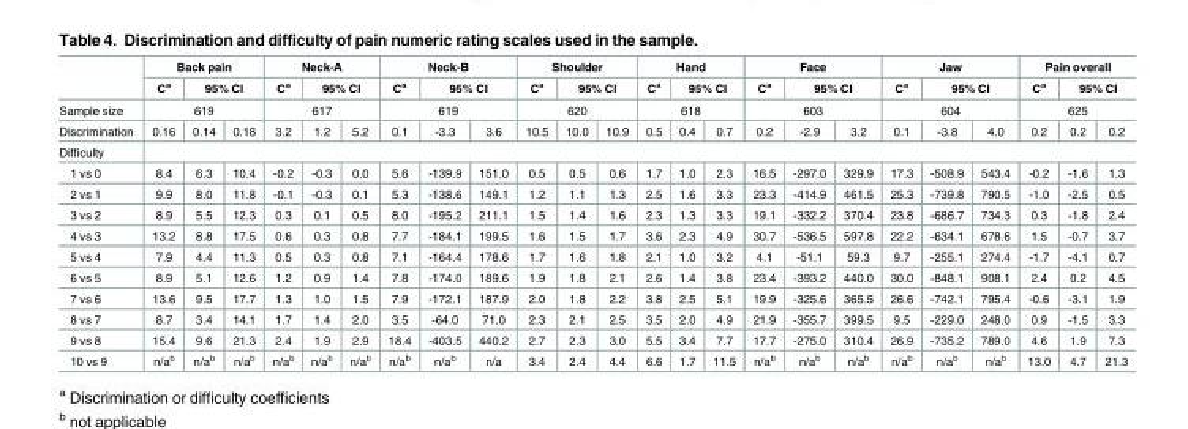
<table><thead><tr><td rowspan="4">Sample size Discrimination</td><td colspan="3">Back pain</td><td colspan="3">Neck-A</td><td colspan="3">Neck-B</td><td colspan="3">Shoulder</td><td colspan="3">Hand</td><td colspan="3">Face</td><td colspan="3">Jaw</td><td colspan="3">Pain overall</td></tr><tr><td>C<sup>a</sup></td><td colspan="2">95% CI</td><td>C<sup>a</sup></td><td colspan="2">95% CI</td><td>C<sup>a</sup></td><td colspan="2">95% CI</td><td>C<sup>a</sup></td><td colspan="2">95% CI</td><td>C<sup>a</sup></td><td colspan="2">95% CI</td><td>C<sup>a</sup></td><td colspan="2">95% CI</td><td>C<sup>a</sup></td><td colspan="2">95% CI</td><td>C<sup>a</sup></td><td colspan="2">95% CI</td></tr><tr><td colspan="3">619</td><td colspan="3">617</td><td colspan="3">619</td><td colspan="3">620</td><td colspan="3">618</td><td colspan="3">603</td><td colspan="3">604</td><td colspan="3">625</td></tr><tr><td>0.16</td><td>0.14</td><td>0.18</td><td>3.2</td><td>1.2</td><td>5.2</td><td>0.1</td><td>-3.3</td><td>3.6</td><td>10.5</td><td>10.0</td><td>10.9</td><td>0.5</td><td>0.4</td><td>0.7</td><td>0.2</td><td>-2.9</td><td>3.2</td><td>0.1</td><td>-3.8</td><td>4.0</td><td>0.2</td><td>0.2</td><td>0.2</td></tr></thead><tbody><tr><td colspan="25">Difficulty</td></tr><tr><td>1 vs 0</td><td>8.4</td><td>6.3</td><td>10.4</td><td>-0.2</td><td>-0.3</td><td>0.0</td><td>5.6</td><td>-139.9</td><td>151.0</td><td>0.5</td><td>0.5</td><td>0.6</td><td>1.7</td><td>1.0</td><td>2.3</td><td>16.5</td><td>-297.0</td><td>329.9</td><td>17.3</td><td>-508.9</td><td>543.4</td><td>-0.2</td><td>-1.6</td><td>1.3</td></tr><tr><td>2 vs 1</td><td>9.9</td><td>8.0</td><td>11.8</td><td>-0.1</td><td>-0.3</td><td>0.1</td><td>5.3</td><td>-138.6</td><td>149.1</td><td>1.2</td><td>1.1</td><td>1.3</td><td>2.5</td><td>1.6</td><td>3.3</td><td>23.3</td><td>-414.9</td><td>461.5</td><td>25.3</td><td>-739.8</td><td>790.5</td><td>-1.0</td><td>-2.5</td><td>0.5</td></tr><tr><td>3 vs 2</td><td>8.9</td><td>5.5</td><td>12.3</td><td>0.3</td><td>0.1</td><td>0.5</td><td>8.0</td><td>-195.2</td><td>211.1</td><td>1.5</td><td>1.4</td><td>1.6</td><td>2.3</td><td>1.3</td><td>3.3</td><td>19.1</td><td>-332.2</td><td>370.4</td><td>23.8</td><td>-686.7</td><td>734.3</td><td>0.3</td><td>-1.8</td><td>2.4</td></tr><tr><td>4 vs 3</td><td>13.2</td><td>8.8</td><td>17.5</td><td>0.6</td><td>0.3</td><td>0.8</td><td>7.7</td><td>-184.1</td><td>199.5</td><td>1.6</td><td>1.5</td><td>1.7</td><td>3.6</td><td>2.3</td><td>4.9</td><td>30.7</td><td>-536.5</td><td>597.8</td><td>22.2</td><td>-634.1</td><td>678.6</td><td>1.5</td><td>-0.7</td><td>3.7</td></tr><tr><td>5 vs 4</td><td>7.9</td><td>4.4</td><td>11.3</td><td>0.5</td><td>0.3</td><td>0.8</td><td>7.1</td><td>-164.4</td><td>178.6</td><td>1.7</td><td>1.6</td><td>1.8</td><td>2.1</td><td>1.0</td><td>3.2</td><td>4.1</td><td>-51.1</td><td>59.3</td><td>9.7</td><td>-255.1</td><td>274.4</td><td>-1.7</td><td>-4.1</td><td>0.7</td></tr><tr><td>6 vs 5</td><td>8.9</td><td>5.1</td><td>12.6</td><td>1.2</td><td>0.9</td><td>1.4</td><td>7.8</td><td>-174.0</td><td>189.6</td><td>1.9</td><td>1.8</td><td>2.1</td><td>2.6</td><td>1.4</td><td>3.8</td><td>23.4</td><td>-393.2</td><td>440.0</td><td>30.0</td><td>-848.1</td><td>908.1</td><td>2.4</td><td>0.2</td><td>4.5</td></tr><tr><td>7 vs 6</td><td>13.6</td><td>9.5</td><td>17.7</td><td>1.3</td><td>1.0</td><td>1.5</td><td>7.9</td><td>-172.1</td><td>187.9</td><td>2.0</td><td>1.8</td><td>2.2</td><td>3.8</td><td>2.5</td><td>5.1</td><td>19.9</td><td>-325.6</td><td>365.5</td><td>26.6</td><td>-742.1</td><td>795.4</td><td>-0.6</td><td>-3.1</td><td>1.9</td></tr><tr><td>8 vs 7</td><td>8.7</td><td>3.4</td><td>14.1</td><td>1.7</td><td>1.4</td><td>2.0</td><td>3.5</td><td>-64.0</td><td>71.0</td><td>2.3</td><td>2.1</td><td>2.5</td><td>3.5</td><td>2.0</td><td>4.9</td><td>21.9</td><td>-355.7</td><td>399.5</td><td>9.5</td><td>-229.0</td><td>248.0</td><td>0.9</td><td>-1.5</td><td>3.3</td></tr><tr><td>9 vs 8</td><td>15.4</td><td>9.6</td><td>21.3</td><td>2.4</td><td>1.9</td><td>2.9</td><td>18.4</td><td>-403.5</td><td>440.2</td><td>2.7</td><td>2.3</td><td>3.0</td><td>5.5</td><td>3.4</td><td>7.7</td><td>17.7</td><td>-275.0</td><td>310.4</td><td>26.9</td><td>-735.2</td><td>789.0</td><td>4.6</td><td>1.9</td><td>7.3</td></tr><tr><td>10 vs 9</td><td>n/a<sup>b</sup></td><td>n/a<sup>b</sup></td><td>n/a<sup>b</sup></td><td>n/a<sup>b</sup></td><td>n/a<sup>b</sup></td><td>n/a<sup>b</sup></td><td>n/a<sup>b</sup></td><td>n/a<sup>b</sup></td><td>n/a</td><td>3.4</td><td>2.4</td><td>4.4</td><td>6.6</td><td>1.7</td><td>11.5</td><td>n/a<sup>b</sup></td><td>n/a<sup>b</sup></td><td>n/a<sup>b</sup></td><td>n/a<sup>b</sup></td><td>n/a<sup>b</sup></td><td>n/a<sup>b</sup></td><td>13.0</td><td>4.7</td><td>21.3</td></tr></tbody></table>